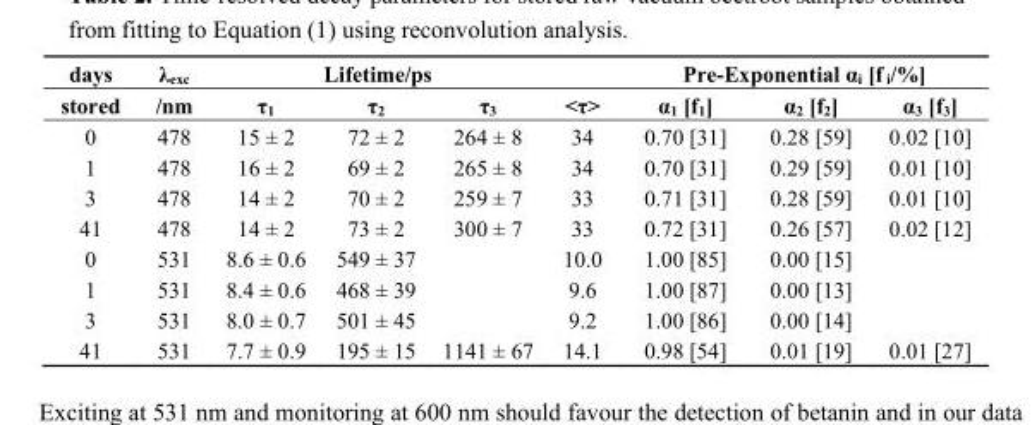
<table><thead><tr><td rowspan="2">days stored</td><td rowspan="2">λ<sub>exc</sub> /nm</td><td colspan="3">Lifetime/ps</td><td rowspan="2">&lt;τ&gt;</td><td colspan="3">Pre-Exponential α<sub>i</sub> [f <sub>i</sub>/%]</td></tr><tr><td>τ<sub>1</sub></td><td>τ<sub>2</sub></td><td>τ<sub>3</sub></td><td>α<sub>1</sub> [f<sub>1</sub>]</td><td>α<sub>2</sub> [f<sub>2</sub>]</td><td>α<sub>3</sub> [f<sub>3</sub>]</td></tr></thead><tbody><tr><td>0</td><td>478</td><td>15 ± 2</td><td>72 ± 2</td><td>264 ± 8</td><td>34</td><td>0.70 [31]</td><td>0.28 [59]</td><td>0.02 [10]</td></tr><tr><td>1</td><td>478</td><td>16 ± 2</td><td>69 ± 2</td><td>265 ± 8</td><td>34</td><td>0.70 [31]</td><td>0.29 [59]</td><td>0.01 [10]</td></tr><tr><td>3</td><td>478</td><td>14 ± 2</td><td>70 ± 2</td><td>259 ± 7</td><td>33</td><td>0.71 [31]</td><td>0.28 [59]</td><td>0.01 [10]</td></tr><tr><td>41</td><td>478</td><td>14 ± 2</td><td>73 ± 2</td><td>300 ± 7</td><td>33</td><td>0.72 [31]</td><td>0.26 [57]</td><td>0.02 [12]</td></tr><tr><td>0</td><td>531</td><td>8.6 ± 0.6</td><td>549 ± 37</td><td></td><td>10.0</td><td>1.00 [85]</td><td>0.00 [15]</td><td></td></tr><tr><td>1</td><td>531</td><td>8.4 ± 0.6</td><td>468 ± 39</td><td></td><td>9.6</td><td>1.00 [87]</td><td>0.00 [13]</td><td></td></tr><tr><td>3</td><td>531</td><td>8.0 ± 0.7</td><td>501 ± 45</td><td></td><td>9.2</td><td>1.00 [86]</td><td>0.00 [14]</td><td></td></tr><tr><td>41</td><td>531</td><td>7.7 ± 0.9</td><td>195 ± 15</td><td>1141 ± 67</td><td>14.1</td><td>0.98 [54]</td><td>0.01 [19]</td><td>0.01 [27]</td></tr></tbody></table>